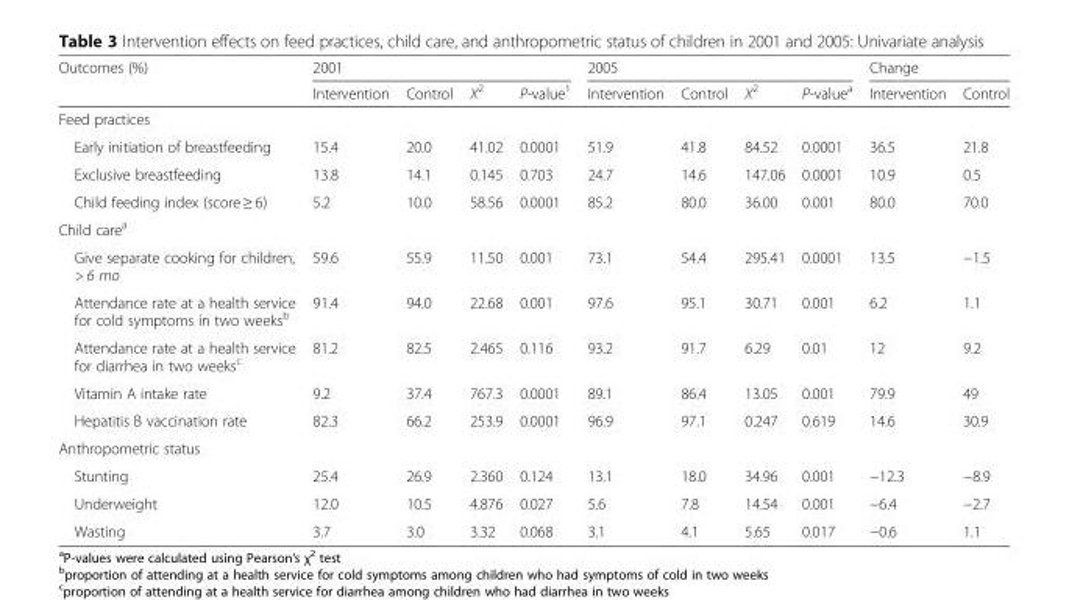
<table><thead><tr><td rowspan="2">Outcomes (%)</td><td colspan="4">2001</td><td colspan="4">2005</td><td colspan="2">Change</td></tr><tr><td>Intervention</td><td>Control</td><td>X<sup>2</sup></td><td>P-value<sup>1</sup></td><td>Intervention</td><td>Control</td><td>X<sup>2</sup></td><td>P-value<sup>a</sup></td><td>Intervention</td><td>Control</td></tr></thead><tbody><tr><td colspan="11">Feed practices</td></tr><tr><td>Early initiation of breastfeeding</td><td>15.4</td><td>20.0</td><td>41.02</td><td>0.0001</td><td>51.9</td><td>41.8</td><td>84.52</td><td>0.0001</td><td>36.5</td><td>21.8</td></tr><tr><td>Exclusive breastfeeding</td><td>13.8</td><td>14.1</td><td>0.145</td><td>0.703</td><td>24.7</td><td>14.6</td><td>147.06</td><td>0.0001</td><td>10.9</td><td>0.5</td></tr><tr><td>Child feeding index (score ≥ 6)</td><td>5.2</td><td>10.0</td><td>58.56</td><td>0.0001</td><td>85.2</td><td>80.0</td><td>36.00</td><td>0.001</td><td>80.0</td><td>70.0</td></tr><tr><td colspan="11">Child care<sup>a</sup></td></tr><tr><td>Give separate cooking for children, &gt; 6 mo</td><td>59.6</td><td>55.9</td><td>11.50</td><td>0.001</td><td>73.1</td><td>54.4</td><td>295.41</td><td>0.0001</td><td>13.5</td><td>−1.5</td></tr><tr><td>Attendance rate at a health service for cold symptoms in two weeks<sup>b</sup></td><td>91.4</td><td>94.0</td><td>22.68</td><td>0.001</td><td>97.6</td><td>95.1</td><td>30.71</td><td>0.001</td><td>6.2</td><td>1.1</td></tr><tr><td>Attendance rate at a health service for diarrhea in two weeks<sup>c</sup></td><td>81.2</td><td>82.5</td><td>2.465</td><td>0.116</td><td>93.2</td><td>91.7</td><td>6.29</td><td>0.01</td><td>12</td><td>9.2</td></tr><tr><td>Vitamin A intake rate</td><td>9.2</td><td>37.4</td><td>767.3</td><td>0.0001</td><td>89.1</td><td>86.4</td><td>13.05</td><td>0.001</td><td>79.9</td><td>49</td></tr><tr><td>Hepatitis B vaccination rate</td><td>82.3</td><td>66.2</td><td>253.9</td><td>0.0001</td><td>96.9</td><td>97.1</td><td>0.247</td><td>0.619</td><td>14.6</td><td>30.9</td></tr><tr><td colspan="11">Anthropometric status</td></tr><tr><td>Stunting</td><td>25.4</td><td>26.9</td><td>2.360</td><td>0.124</td><td>13.1</td><td>18.0</td><td>34.96</td><td>0.001</td><td>−12.3</td><td>−8.9</td></tr><tr><td>Underweight</td><td>12.0</td><td>10.5</td><td>4.876</td><td>0.027</td><td>5.6</td><td>7.8</td><td>14.54</td><td>0.001</td><td>−6.4</td><td>−2.7</td></tr><tr><td>Wasting</td><td>3.7</td><td>3.0</td><td>3.32</td><td>0.068</td><td>3.1</td><td>4.1</td><td>5.65</td><td>0.017</td><td>−0.6</td><td>1.1</td></tr></tbody></table>